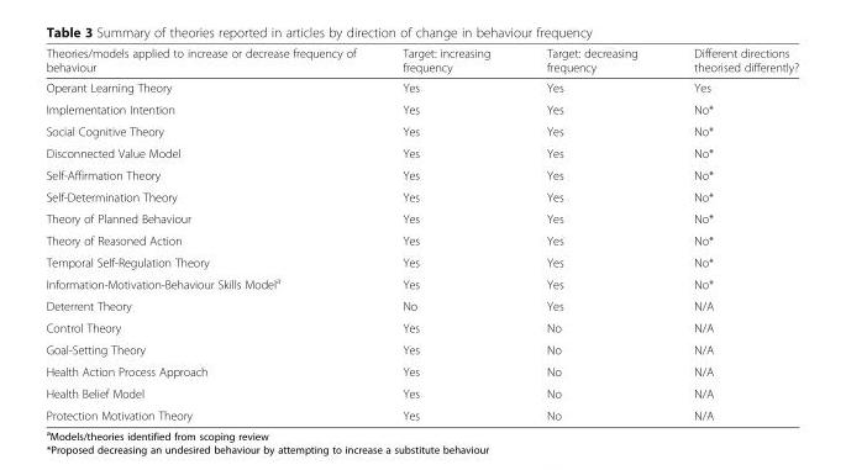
<table><thead><tr><td>Theories/models applied to increase or decrease frequency of behaviour</td><td>Target: increasing frequency</td><td>Target: decreasing frequency</td><td>Different directions theorised differently?</td></tr></thead><tbody><tr><td>Operant Learning Theory</td><td>Yes</td><td>Yes</td><td>Yes</td></tr><tr><td>Implementation Intention</td><td>Yes</td><td>Yes</td><td>No*</td></tr><tr><td>Social Cognitive Theory</td><td>Yes</td><td>Yes</td><td>No*</td></tr><tr><td>Disconnected Value Model</td><td>Yes</td><td>Yes</td><td>No*</td></tr><tr><td>Self-Affirmation Theory</td><td>Yes</td><td>Yes</td><td>No*</td></tr><tr><td>Self-Determination Theory</td><td>Yes</td><td>Yes</td><td>No*</td></tr><tr><td>Theory of Planned Behaviour</td><td>Yes</td><td>Yes</td><td>No*</td></tr><tr><td>Theory of Reasoned Action</td><td>Yes</td><td>Yes</td><td>No*</td></tr><tr><td>Temporal Self-Regulation Theory</td><td>Yes</td><td>Yes</td><td>No*</td></tr><tr><td>Information-Motivation-Behaviour Skills Model<sup>a</sup></td><td>Yes</td><td>Yes</td><td>No*</td></tr><tr><td>Deterrent Theory</td><td>No</td><td>Yes</td><td>N/A</td></tr><tr><td>Control Theory</td><td>Yes</td><td>No</td><td>N/A</td></tr><tr><td>Goal-Setting Theory</td><td>Yes</td><td>No</td><td>N/A</td></tr><tr><td>Health Action Process Approach</td><td>Yes</td><td>No</td><td>N/A</td></tr><tr><td>Health Belief Model</td><td>Yes</td><td>No</td><td>N/A</td></tr><tr><td>Protection Motivation Theory</td><td>Yes</td><td>No</td><td>N/A</td></tr></tbody></table>